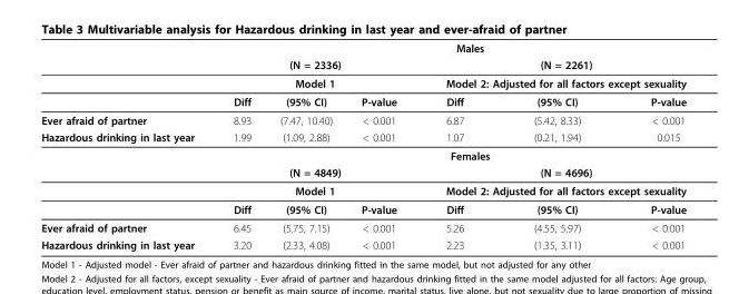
<table><thead><tr><td rowspan="4"></td><td colspan="6">Males</td></tr><tr><td rowspan="2" colspan="3">(N = 2336) Model 1</td><td rowspan="2" colspan="3">(N = 2261) Model 2: Adjusted for all factors except sexuality</td></tr><tr></tr><tr><td>Diff</td><td>(95% CI)</td><td>P-value</td><td>Diff</td><td>(95% CI)</td><td>P-value</td></tr></thead><tbody><tr><td>Ever afraid of partner</td><td>8.93</td><td>(7.47, 10.40)</td><td>&lt; 0.001</td><td>6.87</td><td>(5.42, 8.33)</td><td>&lt; 0.001</td></tr><tr><td rowspan="5">Hazardous drinking in last year</td><td>1.99</td><td>(1.09, 2.88)</td><td>&lt; 0.001</td><td>1.07</td><td>(0.21, 1.94)</td><td>0.015</td></tr><tr><td colspan="6">Females</td></tr><tr><td colspan="3">(N = 4849)</td><td colspan="3">(N = 4696)</td></tr><tr><td colspan="3">Model 1</td><td colspan="3">Model 2: Adjusted for all factors except sexuality</td></tr><tr><td>Diff</td><td>(95% CI)</td><td>P-value</td><td>Diff</td><td>(95% CI)</td><td>P-value</td></tr><tr><td>Ever afraid of partner</td><td>6.45</td><td>(5.75, 7.15)</td><td>&lt; 0.001</td><td>5.26</td><td>(4.55, 5.97)</td><td>&lt; 0.001</td></tr><tr><td>Hazardous drinking in last year</td><td>3.20</td><td>(2.33, 4.08)</td><td>&lt; 0.001</td><td>2.23</td><td>(1.35, 3.11)</td><td>&lt; 0.001</td></tr></tbody></table>